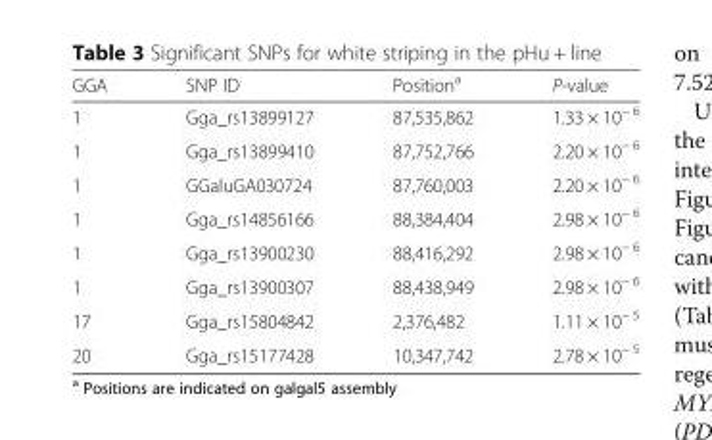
<table><thead><tr><td>GGA</td><td>SNP ID</td><td>Position<sup>a</sup></td><td>P-value</td></tr></thead><tbody><tr><td>1</td><td>Gga_rs13899127</td><td>87,535,862</td><td>1.33 × 10<sup>− 6</sup></td></tr><tr><td>1</td><td>Gga_rs13899410</td><td>87,752,766</td><td>2.20 × 10<sup>− 6</sup></td></tr><tr><td>1</td><td>GGaluGA030724</td><td>87,760,003</td><td>2.20 × 10<sup>− 6</sup></td></tr><tr><td>1</td><td>Gga_rs14856166</td><td>88,384,404</td><td>2.98 × 10<sup>− 6</sup></td></tr><tr><td>1</td><td>Gga_rs13900230</td><td>88,416,292</td><td>2.98 × 10<sup>− 6</sup></td></tr><tr><td>1</td><td>Gga_rs13900307</td><td>88,438,949</td><td>2.98 × 10<sup>− 6</sup></td></tr><tr><td>17</td><td>Gga_rs15804842</td><td>2,376,482</td><td>1.11 × 10<sup>− 5</sup></td></tr><tr><td>20</td><td>Gga_rs15177428</td><td>10,347,742</td><td>2.78 × 10<sup>− 5</sup></td></tr></tbody></table>